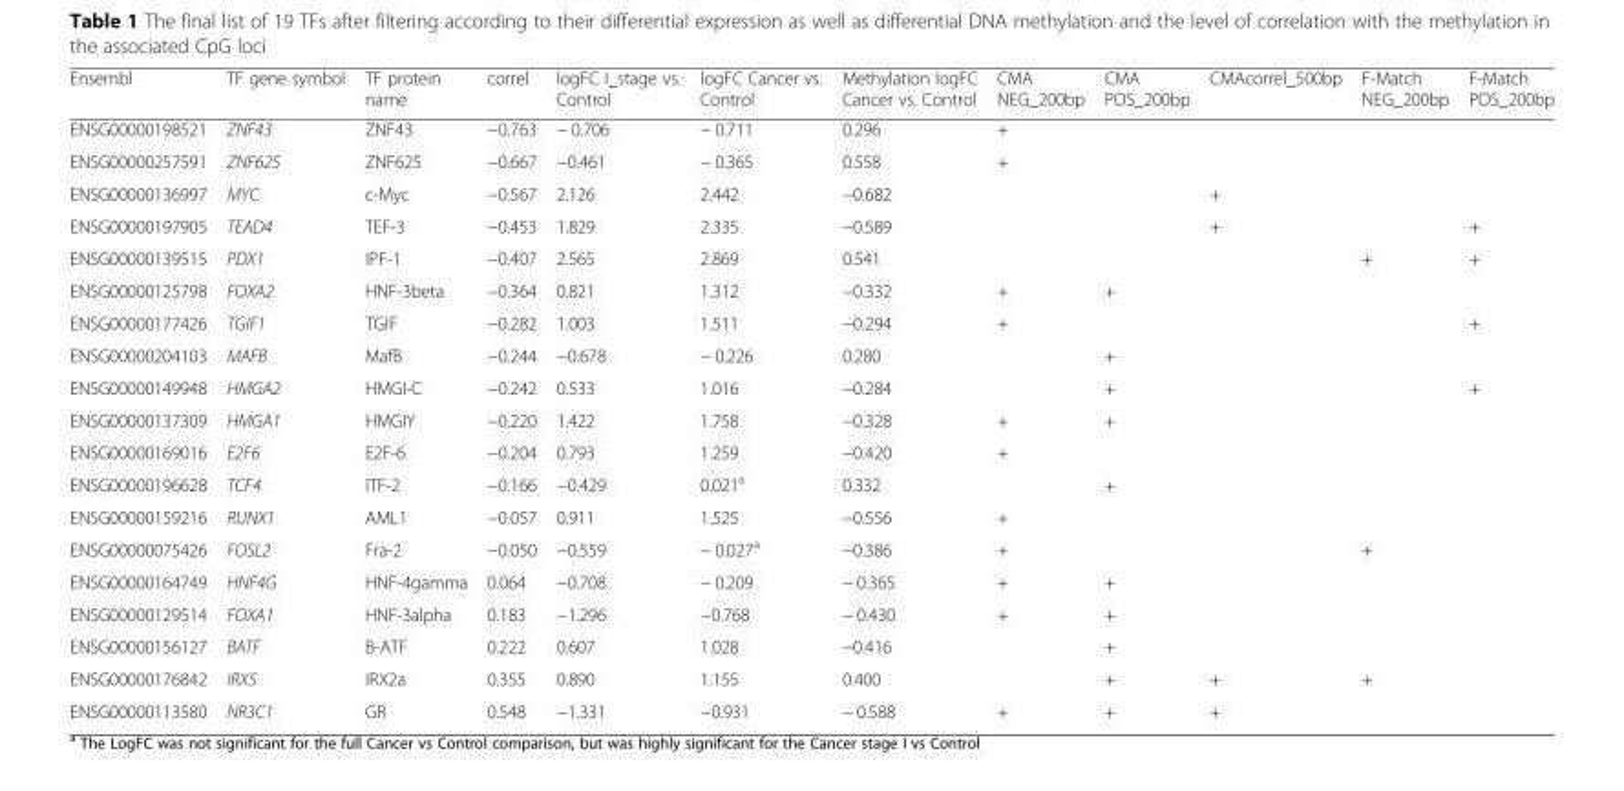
<table><thead><tr><td>Ensembl</td><td>TF gene symbol</td><td>TF protein name</td><td>correl</td><td>logFC I_stage vs. Control</td><td>logFC Cancer vs. Control</td><td>Methylation logFC Cancer vs. Control</td><td>CMA NEG_200bp</td><td>CMA POS_200bp</td><td>CMAcorrel_500bp</td><td>F-Match NEG_200bp</td><td>F-Match POS_200bp</td></tr></thead><tbody><tr><td>ENSG00000198521</td><td>ZNF43</td><td>ZNF43</td><td>−0.763</td><td>− 0.706</td><td>− 0.711</td><td>0.296</td><td>+</td><td></td><td></td><td></td><td></td></tr><tr><td>ENSG00000257591</td><td>ZNF625</td><td>ZNF625</td><td>−0.667</td><td>−0.461</td><td>− 0.365</td><td>0.558</td><td>+</td><td></td><td></td><td></td><td></td></tr><tr><td>ENSG00000136997</td><td>MYC</td><td>c-Myc</td><td>−0.567</td><td>2.126</td><td>2.442</td><td>−0.682</td><td></td><td></td><td>+</td><td></td><td></td></tr><tr><td>ENSG00000197905</td><td>TEAD4</td><td>TEF-3</td><td>−0.453</td><td>1.829</td><td>2.335</td><td>−0.589</td><td></td><td></td><td>+</td><td></td><td>+</td></tr><tr><td>ENSG00000139515</td><td>PDX1</td><td>IPF-1</td><td>−0.407</td><td>2.565</td><td>2.869</td><td>0.541</td><td></td><td></td><td></td><td>+</td><td>+</td></tr><tr><td>ENSG00000125798</td><td>FOXA2</td><td>HNF-3beta</td><td>−0.364</td><td>0.821</td><td>1.312</td><td>−0.332</td><td>+</td><td>+</td><td></td><td></td><td></td></tr><tr><td>ENSG00000177426</td><td>TGIF1</td><td>TGIF</td><td>−0.282</td><td>1.003</td><td>1.511</td><td>−0.294</td><td>+</td><td></td><td></td><td></td><td>+</td></tr><tr><td>ENSG00000204103</td><td>MAFB</td><td>MafB</td><td>−0.244</td><td>−0.678</td><td>− 0.226</td><td>0.280</td><td></td><td>+</td><td></td><td></td><td></td></tr><tr><td>ENSG00000149948</td><td>HMGA2</td><td>HMGI-C</td><td>−0.242</td><td>0.533</td><td>1.016</td><td>−0.284</td><td></td><td>+</td><td></td><td></td><td>+</td></tr><tr><td>ENSG00000137309</td><td>HMGA1</td><td>HMGIY</td><td>−0.220</td><td>1.422</td><td>1.758</td><td>−0.328</td><td>+</td><td>+</td><td></td><td></td><td></td></tr><tr><td>ENSG00000169016</td><td>E2F6</td><td>E2F-6</td><td>−0.204</td><td>0.793</td><td>1.259</td><td>−0.420</td><td>+</td><td></td><td></td><td></td><td></td></tr><tr><td>ENSG00000196628</td><td>TCF4</td><td>ITF-2</td><td>−0.166</td><td>−0.429</td><td>0.021<sup>a</sup></td><td>0.332</td><td></td><td>+</td><td></td><td></td><td></td></tr><tr><td>ENSG00000159216</td><td>RUNX1</td><td>AML1</td><td>−0.057</td><td>0.911</td><td>1.525</td><td>−0.556</td><td>+</td><td></td><td></td><td></td><td></td></tr><tr><td>ENSG00000075426</td><td>FOSL2</td><td>Fra-2</td><td>−0.050</td><td>−0.559</td><td>− 0.027<sup>a</sup></td><td>−0.386</td><td>+</td><td></td><td></td><td>+</td><td></td></tr><tr><td>ENSG00000164749</td><td>HNF4G</td><td>HNF-4gamma</td><td>0.064</td><td>−0.708</td><td>− 0.209</td><td>− 0.365</td><td>+</td><td>+</td><td></td><td></td><td></td></tr><tr><td>ENSG00000129514</td><td>FOXA1</td><td>HNF-3alpha</td><td>0.183</td><td>−1.296</td><td>−0.768</td><td>− 0.430</td><td>+</td><td>+</td><td></td><td></td><td></td></tr><tr><td>ENSG00000156127</td><td>BATF</td><td>B-ATF</td><td>0.222</td><td>0.607</td><td>1.028</td><td>−0.416</td><td></td><td>+</td><td></td><td></td><td></td></tr><tr><td>ENSG00000176842</td><td>IRX5</td><td>IRX2a</td><td>0.355</td><td>0.890</td><td>1.155</td><td>0.400</td><td></td><td>+</td><td>+</td><td>+</td><td></td></tr><tr><td>ENSG00000113580</td><td>NR3C1</td><td>GR</td><td>0.548</td><td>−1.331</td><td>−0.931</td><td>− 0.588</td><td>+</td><td>+</td><td>+</td><td></td><td></td></tr></tbody></table>